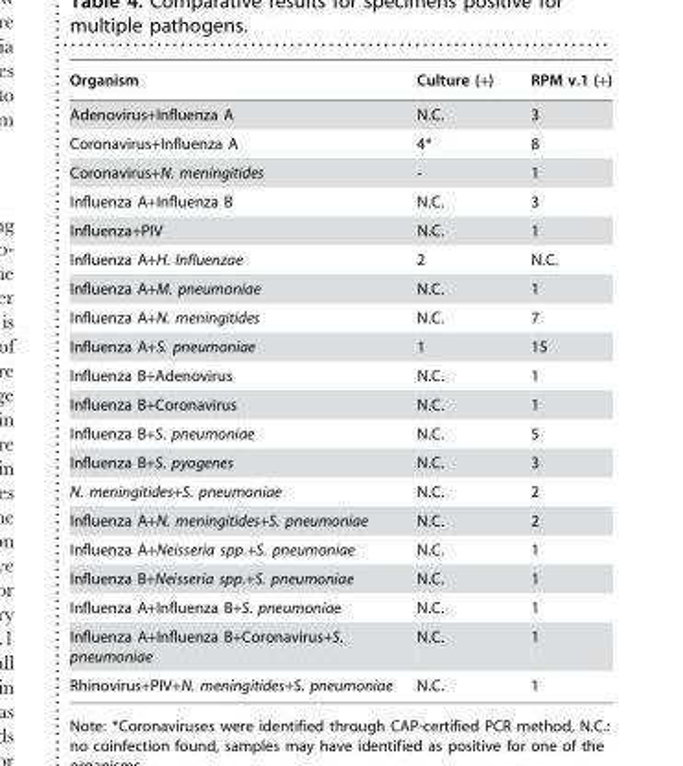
<table><thead><tr><td>Organism</td><td>Culture (+)</td><td>RPM v.1 (+)</td></tr></thead><tbody><tr><td>Adenovirus+Influenza A</td><td>N.C.</td><td>3</td></tr><tr><td>Coronavirus+Influenza A</td><td>4*</td><td>8</td></tr><tr><td>Coronavirus+N. meningitides</td><td>-</td><td>1</td></tr><tr><td>Influenza A+Influenza B</td><td>N.C.</td><td>3</td></tr><tr><td>Influenza+PIV</td><td>N.C.</td><td>1</td></tr><tr><td>Influenza A+H. Influenzae</td><td>2</td><td>N.C.</td></tr><tr><td>Influenza A+M. pneumoniae</td><td>N.C.</td><td>1</td></tr><tr><td>Influenza A+N. meningitides</td><td>N.C.</td><td>7</td></tr><tr><td>Influenza A+S. pneumoniae</td><td>1</td><td>15</td></tr><tr><td>Influenza B+Adenovirus</td><td>N.C.</td><td>1</td></tr><tr><td>Influenza B+Coronavirus</td><td>N.C.</td><td>1</td></tr><tr><td>Influenza B+S. pneumoniae</td><td>N.C.</td><td>5</td></tr><tr><td>Influenza B+S. pyogenes</td><td>N.C.</td><td>3</td></tr><tr><td>N. meningitides+S. pneumoniae</td><td>N.C.</td><td>2</td></tr><tr><td>Influenza A+N. meningitides+S. pneumoniae</td><td>N.C.</td><td>2</td></tr><tr><td>Influenza A+Neisseria spp.+S. pneumoniae</td><td>N.C.</td><td>1</td></tr><tr><td>Influenza B+Neisseria spp.+S. pneumoniae</td><td>N.C.</td><td>1</td></tr><tr><td>Influenza A+Influenza B+S. pneumoniae</td><td>N.C.</td><td>1</td></tr><tr><td>Influenza A+Influenza B+Coronavirus+S. pneumoniae</td><td>N.C.</td><td>1</td></tr><tr><td>Rhinovirus+PIV+N. meningitides+S. pneumoniae</td><td>N.C.</td><td>1</td></tr></tbody></table>